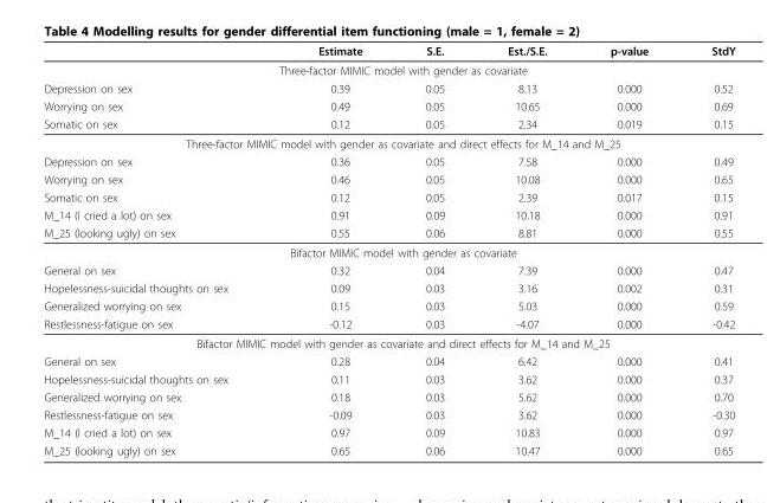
<table><thead><tr><td></td><td>Estimate</td><td>S.E.</td><td>Est./S.E.</td><td>p-value</td><td>StdY</td></tr></thead><tbody><tr><td colspan="6">Three-factor MIMIC model with gender as covariate</td></tr><tr><td>Depression on sex</td><td>0.39</td><td>0.05</td><td>8.13</td><td>0.000</td><td>0.52</td></tr><tr><td>Worrying on sex</td><td>0.49</td><td>0.05</td><td>10.65</td><td>0.000</td><td>0.69</td></tr><tr><td>Somatic on sex</td><td>0.12</td><td>0.05</td><td>2.34</td><td>0.019</td><td>0.15</td></tr><tr><td colspan="6">Three-factor MIMIC model with gender as covariate and direct effects for M_14 and M_25</td></tr><tr><td>Depression on sex</td><td>0.36</td><td>0.05</td><td>7.58</td><td>0.000</td><td>0.49</td></tr><tr><td>Worrying on sex</td><td>0.46</td><td>0.05</td><td>10.08</td><td>0.000</td><td>0.65</td></tr><tr><td>Somatic on sex</td><td>0.12</td><td>0.05</td><td>2.39</td><td>0.017</td><td>0.15</td></tr><tr><td>M_14 (I cried a lot) on sex</td><td>0.91</td><td>0.09</td><td>10.18</td><td>0.000</td><td>0.91</td></tr><tr><td>M_25 (looking ugly) on sex</td><td>0.55</td><td>0.06</td><td>8.81</td><td>0.000</td><td>0.55</td></tr><tr><td colspan="6">Bifactor MIMIC model with gender as covariate</td></tr><tr><td>General on sex</td><td>0.32</td><td>0.04</td><td>7.39</td><td>0.000</td><td>0.47</td></tr><tr><td>Hopelessness-suicidal thoughts on sex</td><td>0.09</td><td>0.03</td><td>3.16</td><td>0.002</td><td>0.31</td></tr><tr><td>Generalized worrying on sex</td><td>0.15</td><td>0.03</td><td>5.03</td><td>0.000</td><td>0.59</td></tr><tr><td>Restlessness-fatigue on sex</td><td>-0.12</td><td>0.03</td><td>-4.07</td><td>0.000</td><td>-0.42</td></tr><tr><td colspan="6">Bifactor MIMIC model with gender as covariate and direct effects for M_14 and M_25</td></tr><tr><td>General on sex</td><td>0.28</td><td>0.04</td><td>6.42</td><td>0.000</td><td>0.41</td></tr><tr><td>Hopelessness-suicidal thoughts on sex</td><td>0.11</td><td>0.03</td><td>3.62</td><td>0.000</td><td>0.37</td></tr><tr><td>Generalized worrying on sex</td><td>0.18</td><td>0.03</td><td>5.62</td><td>0.000</td><td>0.70</td></tr><tr><td>Restlessness-fatigue on sex</td><td>-0.09</td><td>0.03</td><td>3.62</td><td>0.000</td><td>-0.30</td></tr><tr><td>M_14 (I cried a lot) on sex</td><td>0.97</td><td>0.09</td><td>10.83</td><td>0.000</td><td>0.97</td></tr><tr><td>M_25 (looking ugly) on sex</td><td>0.65</td><td>0.06</td><td>10.47</td><td>0.000</td><td>0.65</td></tr></tbody></table>